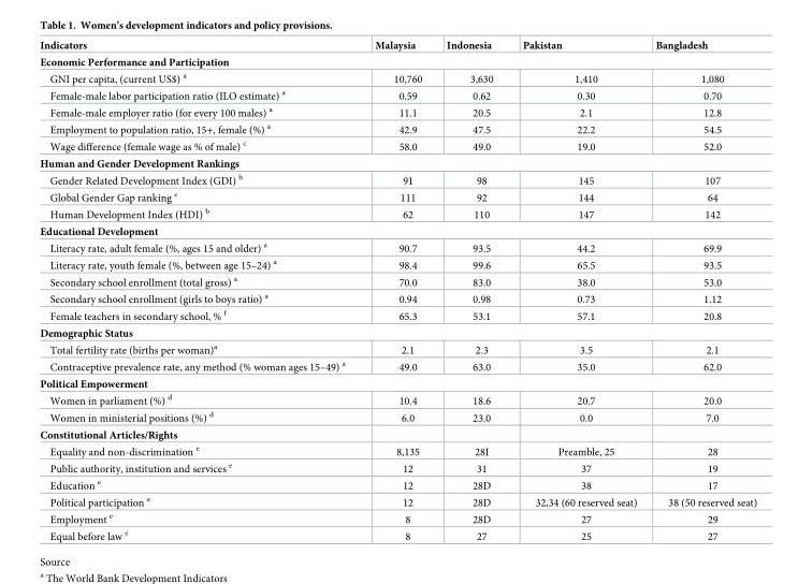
<table><thead><tr><td>Indicators</td><td>Malaysia</td><td>Indonesia</td><td>Pakistan</td><td>Bangladesh</td></tr></thead><tbody><tr><td colspan="5">Economic Performance and Participation</td></tr><tr><td>GNI per capita, (current US$) <sup>a</sup></td><td>10,760</td><td>3,630</td><td>1,410</td><td>1,080</td></tr><tr><td>Female-male labor participation ratio (ILO estimate) <sup>a</sup></td><td>0.59</td><td>0.62</td><td>0.30</td><td>0.70</td></tr><tr><td>Female-male employer ratio (for every 100 males) <sup>a</sup></td><td>11.1</td><td>20.5</td><td>2.1</td><td>12.8</td></tr><tr><td>Employment to population ratio, 15+, female (%) <sup>a</sup></td><td>42.9</td><td>47.5</td><td>22.2</td><td>54.5</td></tr><tr><td>Wage difference (female wage as % of male) <sup>c</sup></td><td>58.0</td><td>49.0</td><td>19.0</td><td>52.0</td></tr><tr><td colspan="5">Human and Gender Development Rankings</td></tr><tr><td>Gender Related Development Index (GDI) <sup>b</sup></td><td>91</td><td>98</td><td>145</td><td>107</td></tr><tr><td>Global Gender Gap ranking <sup>c</sup></td><td>111</td><td>92</td><td>144</td><td>64</td></tr><tr><td>Human Development Index (HDI) <sup>b</sup></td><td>62</td><td>110</td><td>147</td><td>142</td></tr><tr><td colspan="5">Educational Development</td></tr><tr><td>Literacy rate, adult female (%, ages 15 and older) <sup>a</sup></td><td>90.7</td><td>93.5</td><td>44.2</td><td>69.9</td></tr><tr><td>Literacy rate, youth female (%, between age 15–24) <sup>a</sup></td><td>98.4</td><td>99.6</td><td>65.5</td><td>93.5</td></tr><tr><td>Secondary school enrollment (total gross) <sup>a</sup></td><td>70.0</td><td>83.0</td><td>38.0</td><td>53.0</td></tr><tr><td>Secondary school enrollment (girls to boys ratio) <sup>a</sup></td><td>0.94</td><td>0.98</td><td>0.73</td><td>1.12</td></tr><tr><td>Female teachers in secondary school, % <sup>f</sup></td><td>65.3</td><td>53.1</td><td>57.1</td><td>20.8</td></tr><tr><td colspan="5">Demographic Status</td></tr><tr><td>Total fertility rate (births per woman)<sup>a</sup></td><td>2.1</td><td>2.3</td><td>3.5</td><td>2.1</td></tr><tr><td>Contraceptive prevalence rate, any method (% woman ages 15–49) <sup>a</sup></td><td>49.0</td><td>63.0</td><td>35.0</td><td>62.0</td></tr><tr><td colspan="5">Political Empowerment</td></tr><tr><td>Women in parliament (%) <sup>d</sup></td><td>10.4</td><td>18.6</td><td>20.7</td><td>20.0</td></tr><tr><td>Women in ministerial positions (%) <sup>d</sup></td><td>6.0</td><td>23.0</td><td>0.0</td><td>7.0</td></tr><tr><td colspan="5">Constitutional Articles/Rights</td></tr><tr><td>Equality and non-discrimination <sup>e</sup></td><td>8,135</td><td>28I</td><td>Preamble, 25</td><td>28</td></tr><tr><td>Public authority, institution and services <sup>e</sup></td><td>12</td><td>31</td><td>37</td><td>19</td></tr><tr><td>Education <sup>e</sup></td><td>12</td><td>28D</td><td>38</td><td>17</td></tr><tr><td>Political participation <sup>e</sup></td><td>12</td><td>28D</td><td>32,34 (60 reserved seat)</td><td>38 (50 reserved seat)</td></tr><tr><td>Employment <sup>e</sup></td><td>8</td><td>28D</td><td>27</td><td>29</td></tr><tr><td>Equal before law <sup>e</sup></td><td>8</td><td>27</td><td>25</td><td>27</td></tr></tbody></table>